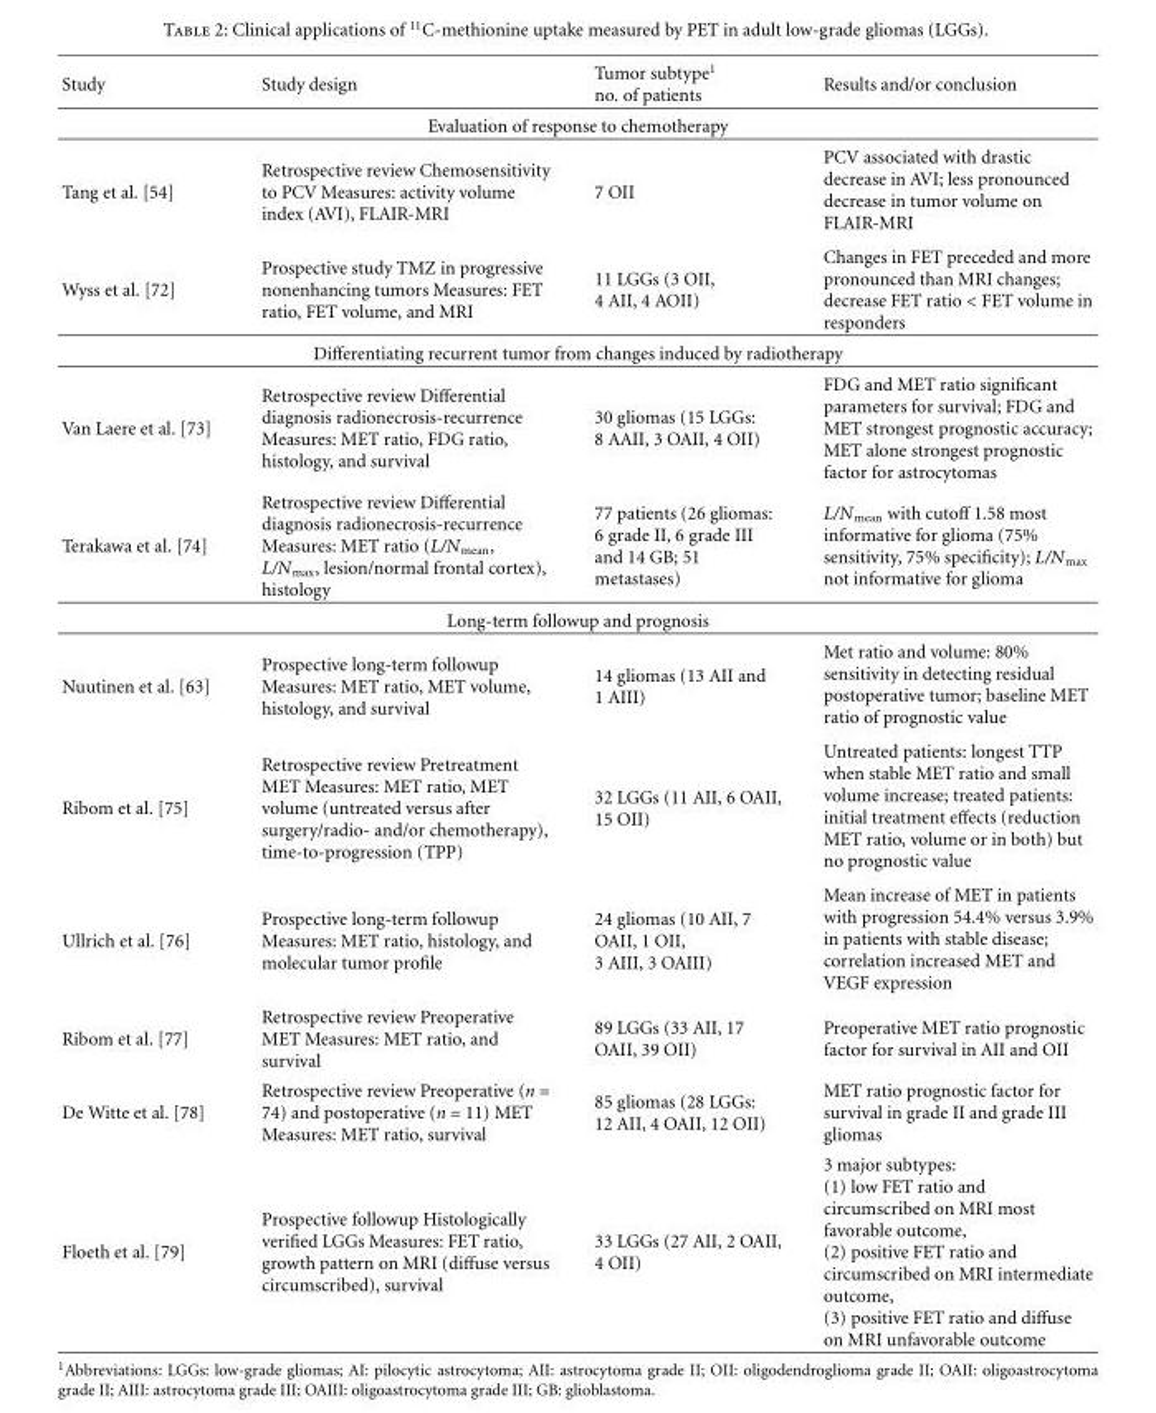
<table><thead><tr><td>Study</td><td>Study design</td><td>Tumor subtype<sup>1</sup> no. of patients</td><td>Results and/or conclusion</td></tr></thead><tbody><tr><td colspan="4">Evaluation of response to chemotherapy</td></tr><tr><td>Tang et al. [54]</td><td>Retrospective review Chemosensitivity to PCV Measures: activity volume index (AVI), FLAIR-MRI</td><td>7 OII</td><td>PCV associated with drastic decrease in AVI; less pronounced decrease in tumor volume on FLAIR-MRI</td></tr><tr><td>Wyss et al. [72]</td><td>Prospective study TMZ in progressive nonenhancing tumors Measures: FET ratio, FET volume, and MRI</td><td>11 LGGs (3 OII, 4 AII, 4 AOII)</td><td>Changes in FET preceded and more pronounced than MRI changes; decrease FET ratio &lt; FET volume in responders</td></tr><tr><td colspan="4">Differentiating recurrent tumor from changes induced by radiotherapy</td></tr><tr><td>Van Laere et al. [73]</td><td>Retrospective review Differential diagnosis radionecrosis-recurrence Measures: MET ratio, FDG ratio, histology, and survival</td><td>30 gliomas (15 LGGs: 8 AAII, 3 OAII, 4 OII)</td><td>FDG and MET ratio significant parameters for survival; FDG and MET strongest prognostic accuracy; MET alone strongest prognostic factor for astrocytomas</td></tr><tr><td>Terakawa et al. [74]</td><td>Retrospective review Differential diagnosis radionecrosis-recurrence Measures: MET ratio (L/N<sub>mean</sub>, L/N<sub>max</sub>, lesion/normal frontal cortex), histology</td><td>77 patients (26 gliomas: 6 grade II, 6 grade III and 14 GB; 51 metastases)</td><td>L/N<sub>mean</sub> with cutoff 1.58 most informative for glioma (75% sensitivity, 75% specificity); L/N<sub>max</sub> not informative for glioma</td></tr><tr><td colspan="4">Long-term followup and prognosis</td></tr><tr><td>Nuutinen et al. [63]</td><td>Prospective long-term followup Measures: MET ratio, MET volume, histology, and survival</td><td>14 gliomas (13 AII and 1 AIII)</td><td>Met ratio and volume: 80% sensitivity in detecting residual postoperative tumor; baseline MET ratio of prognostic value</td></tr><tr><td>Ribom et al. [75]</td><td>Retrospective review Pretreatment MET Measures: MET ratio, MET volume (untreated versus after surgery/radio- and/or chemotherapy), time-to-progression (TPP)</td><td>32 LGGs (11 AII, 6 OAII, 15 OII)</td><td>Untreated patients: longest TTP when stable MET ratio and small volume increase; treated patients: initial treatment effects (reduction MET ratio, volume or in both) but no prognostic value</td></tr><tr><td>Ullrich et al. [76]</td><td>Prospective long-term followup Measures: MET ratio, histology, and molecular tumor profile</td><td>24 gliomas (10 AII, 7 OAII, 1 OII, 3 AIII, 3 OAIII)</td><td>Mean increase of MET in patients with progression 54.4% versus 3.9% in patients with stable disease; correlation increased MET and VEGF expression</td></tr><tr><td>Ribom et al. [77]</td><td>Retrospective review Preoperative MET Measures: MET ratio, and survival</td><td>89 LGGs (33 AII, 17 OAII, 39 OII)</td><td>Preoperative MET ratio prognostic factor for survival in AII and OII</td></tr><tr><td>De Witte et al. [78]</td><td>Retrospective review Preoperative (n = 74) and postoperative (n = 11) MET Measures: MET ratio, survival</td><td>85 gliomas (28 LGGs: 12 AII, 4 OAII, 12 OII)</td><td>MET ratio prognostic factor for survival in grade II and grade III gliomas</td></tr><tr><td>Floeth et al. [79]</td><td>Prospective followup Histologically verified LGGs Measures: FET ratio, growth pattern on MRI (diffuse versus circumscribed), survival</td><td>33 LGGs (27 AII, 2 OAII, 4 OII)</td><td>3 major subtypes: (1) low FET ratio and circumscribed on MRI most favorable outcome, (2) positive FET ratio and circumscribed on MRI intermediate outcome, (3) positive FET ratio and diffuse on MRI unfavorable outcome</td></tr></tbody></table>